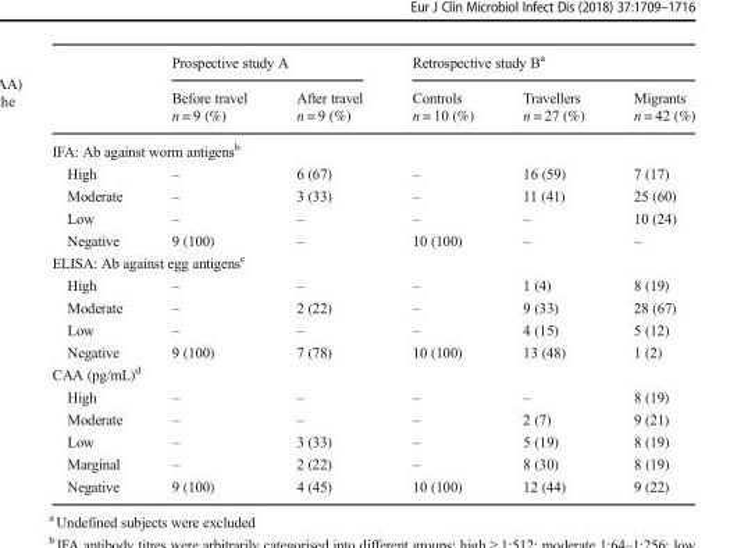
<table><thead><tr><td rowspan="2"></td><td colspan="2">Prospective study A</td><td colspan="3">Retrospective study B<sup>a</sup></td></tr><tr><td>Before travel n = 9 (%)</td><td>After travel n = 9 (%)</td><td>Controls n = 10 (%)</td><td>Travellers n = 27 (%)</td><td>Migrants n = 42 (%)</td></tr></thead><tbody><tr><td colspan="6">IFA: Ab against worm antigens<sup>b</sup></td></tr><tr><td>High</td><td>–</td><td>6 (67)</td><td>–</td><td>16 (59)</td><td>7 (17)</td></tr><tr><td>Moderate</td><td>–</td><td>3 (33)</td><td>–</td><td>11 (41)</td><td>25 (60)</td></tr><tr><td>Low</td><td>–</td><td>–</td><td>–</td><td>–</td><td>10 (24)</td></tr><tr><td>Negative</td><td>9 (100)</td><td>–</td><td>10 (100)</td><td>–</td><td>–</td></tr><tr><td colspan="6">ELISA: Ab against egg antigens<sup>c</sup></td></tr><tr><td>High</td><td>–</td><td>–</td><td>–</td><td>1 (4)</td><td>8 (19)</td></tr><tr><td>Moderate</td><td>–</td><td>2 (22)</td><td>–</td><td>9 (33)</td><td>28 (67)</td></tr><tr><td>Low</td><td>–</td><td>–</td><td>–</td><td>4 (15)</td><td>5 (12)</td></tr><tr><td>Negative</td><td>9 (100)</td><td>7 (78)</td><td>10 (100)</td><td>13 (48)</td><td>1 (2)</td></tr><tr><td colspan="6">CAA (pg/mL)<sup>d</sup></td></tr><tr><td>High</td><td>–</td><td>–</td><td>–</td><td>–</td><td>8 (19)</td></tr><tr><td>Moderate</td><td>–</td><td>–</td><td>–</td><td>2 (7)</td><td>9 (21)</td></tr><tr><td>Low</td><td>–</td><td>3 (33)</td><td>–</td><td>5 (19)</td><td>8 (19)</td></tr><tr><td>Marginal</td><td>–</td><td>2 (22)</td><td>–</td><td>8 (30)</td><td>8 (19)</td></tr><tr><td>Negative</td><td>9 (100)</td><td>4 (45)</td><td>10 (100)</td><td>12 (44)</td><td>9 (22)</td></tr></tbody></table>